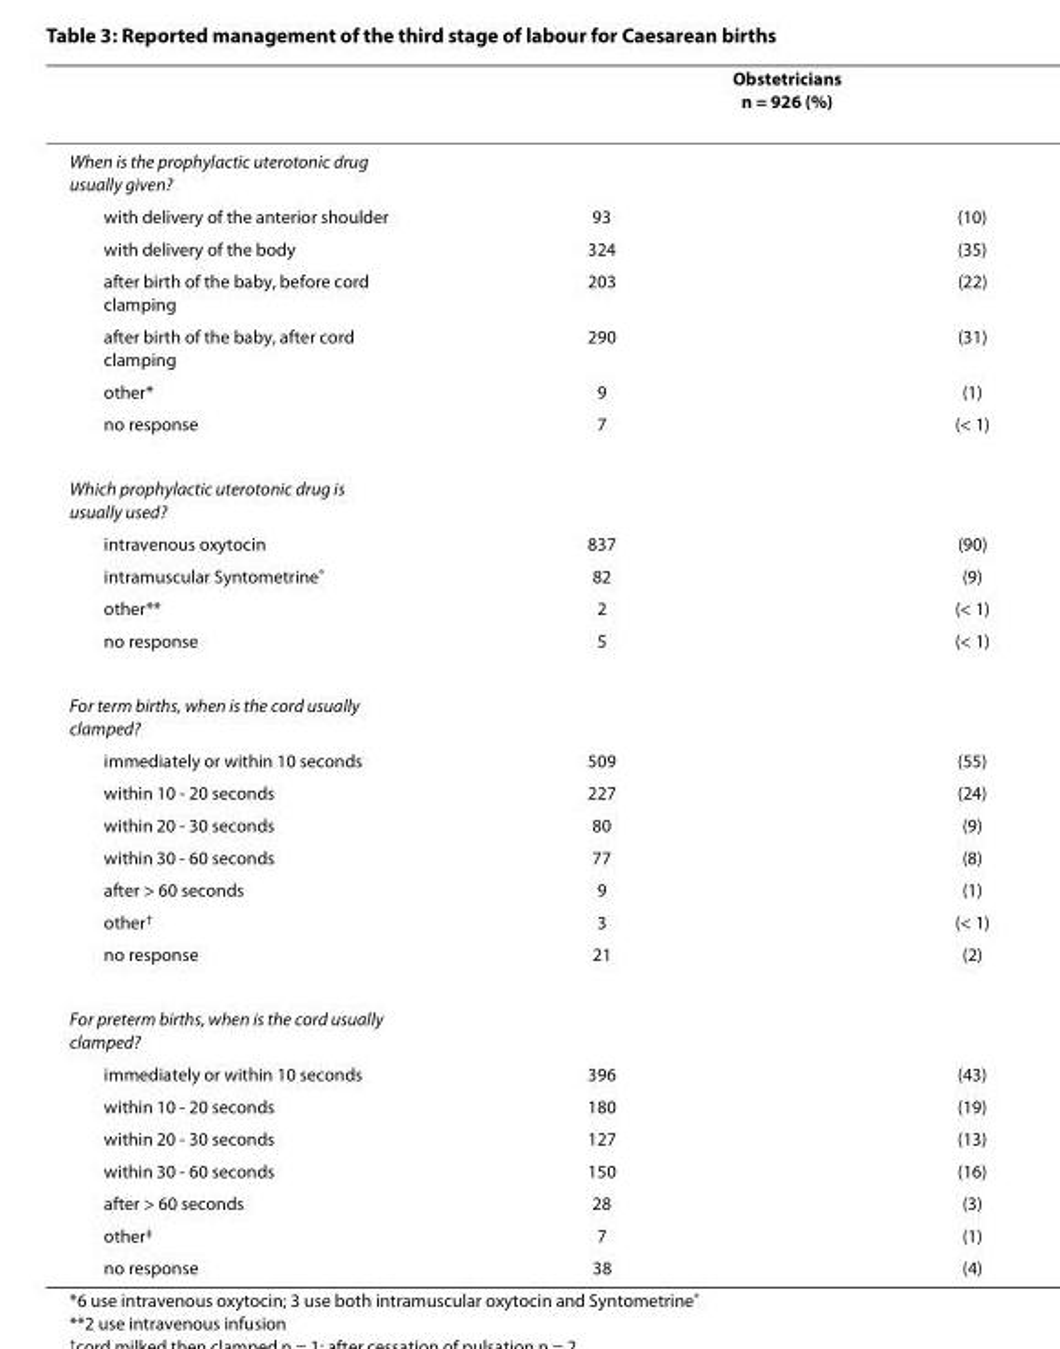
<table><thead><tr><td rowspan="2">When is the prophylactic uterotonic drug usually given?</td><td colspan="2">Obstetricians n = 926 (%)</td></tr><tr><td></td><td></td></tr></thead><tbody><tr><td>with delivery of the anterior shoulder</td><td>93</td><td>(10)</td></tr><tr><td>with delivery of the body</td><td>324</td><td>(35)</td></tr><tr><td>after birth of the baby, before cord clamping</td><td>203</td><td>(22)</td></tr><tr><td>after birth of the baby, after cord clamping</td><td>290</td><td>(31)</td></tr><tr><td>other*</td><td>9</td><td>(1)</td></tr><tr><td>no response</td><td>7</td><td>(&lt; 1)</td></tr><tr><td colspan="3">Which prophylactic uterotonic drug is usually used?</td></tr><tr><td>intravenous oxytocin</td><td>837</td><td>(90)</td></tr><tr><td>intramuscular Syntometrine<sup>®</sup></td><td>82</td><td>(9)</td></tr><tr><td>other**</td><td>2</td><td>(&lt; 1)</td></tr><tr><td>no response</td><td>5</td><td>(&lt; 1)</td></tr><tr><td colspan="3">For term births, when is the cord usually clamped?</td></tr><tr><td>immediately or within 10 seconds</td><td>509</td><td>(55)</td></tr><tr><td>within 10 - 20 seconds</td><td>227</td><td>(24)</td></tr><tr><td>within 20 - 30 seconds</td><td>80</td><td>(9)</td></tr><tr><td>within 30 - 60 seconds</td><td>77</td><td>(8)</td></tr><tr><td>after &gt; 60 seconds</td><td>9</td><td>(1)</td></tr><tr><td>other<sup>†</sup></td><td>3</td><td>(&lt; 1)</td></tr><tr><td>no response</td><td>21</td><td>(2)</td></tr><tr><td colspan="3">For preterm births, when is the cord usually clamped?</td></tr><tr><td>immediately or within 10 seconds</td><td>396</td><td>(43)</td></tr><tr><td>within 10 - 20 seconds</td><td>180</td><td>(19)</td></tr><tr><td>within 20 - 30 seconds</td><td>127</td><td>(13)</td></tr><tr><td>within 30 - 60 seconds</td><td>150</td><td>(16)</td></tr><tr><td>after &gt; 60 seconds</td><td>28</td><td>(3)</td></tr><tr><td>other<sup>‡</sup></td><td>7</td><td>(1)</td></tr><tr><td>no response</td><td>38</td><td>(4)</td></tr></tbody></table>